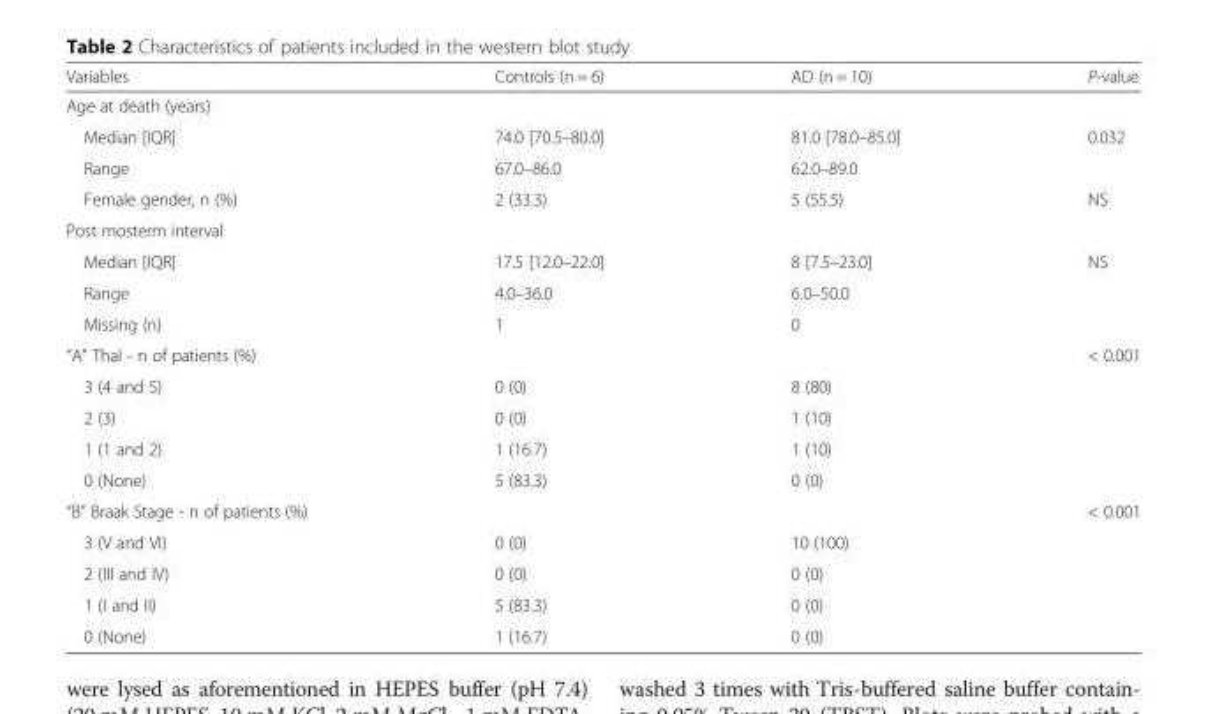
<table><thead><tr><td>Variables</td><td>Controls (n = 6)</td><td>AD (n = 10)</td><td>P-value</td></tr></thead><tbody><tr><td colspan="4">Age at death (years)</td></tr><tr><td>Median [IQR]</td><td>74.0 [70.5–80.0]</td><td>81.0 [78.0–85.0]</td><td>0.032</td></tr><tr><td>Range</td><td>67.0–86.0</td><td>62.0–89.0</td><td></td></tr><tr><td>Female gender, n (%)</td><td>2 (33.3)</td><td>5 (55.5)</td><td>NS</td></tr><tr><td colspan="4">Post mosterm interval</td></tr><tr><td>Median [IQR]</td><td>17.5 [12.0–22.0]</td><td>8 [7.5–23.0]</td><td>NS</td></tr><tr><td>Range</td><td>4.0–36.0</td><td>6.0–50.0</td><td></td></tr><tr><td>Missing (n)</td><td>1</td><td>0</td><td></td></tr><tr><td>“A” Thal - n of patients (%)</td><td></td><td></td><td>&lt; 0.001</td></tr><tr><td>3 (4 and 5)</td><td>0 (0)</td><td>8 (80)</td><td></td></tr><tr><td>2 (3)</td><td>0 (0)</td><td>1 (10)</td><td></td></tr><tr><td>1 (1 and 2)</td><td>1 (16.7)</td><td>1 (10)</td><td></td></tr><tr><td>0 (None)</td><td>5 (83.3)</td><td>0 (0)</td><td></td></tr><tr><td>“B” Braak Stage - n of patients (%)</td><td></td><td></td><td>&lt; 0.001</td></tr><tr><td>3 (V and VI)</td><td>0 (0)</td><td>10 (100)</td><td></td></tr><tr><td>2 (III and IV)</td><td>0 (0)</td><td>0 (0)</td><td></td></tr><tr><td>1 (I and II)</td><td>5 (83.3)</td><td>0 (0)</td><td></td></tr><tr><td>0 (None)</td><td>1 (16.7)</td><td>0 (0)</td><td></td></tr></tbody></table>